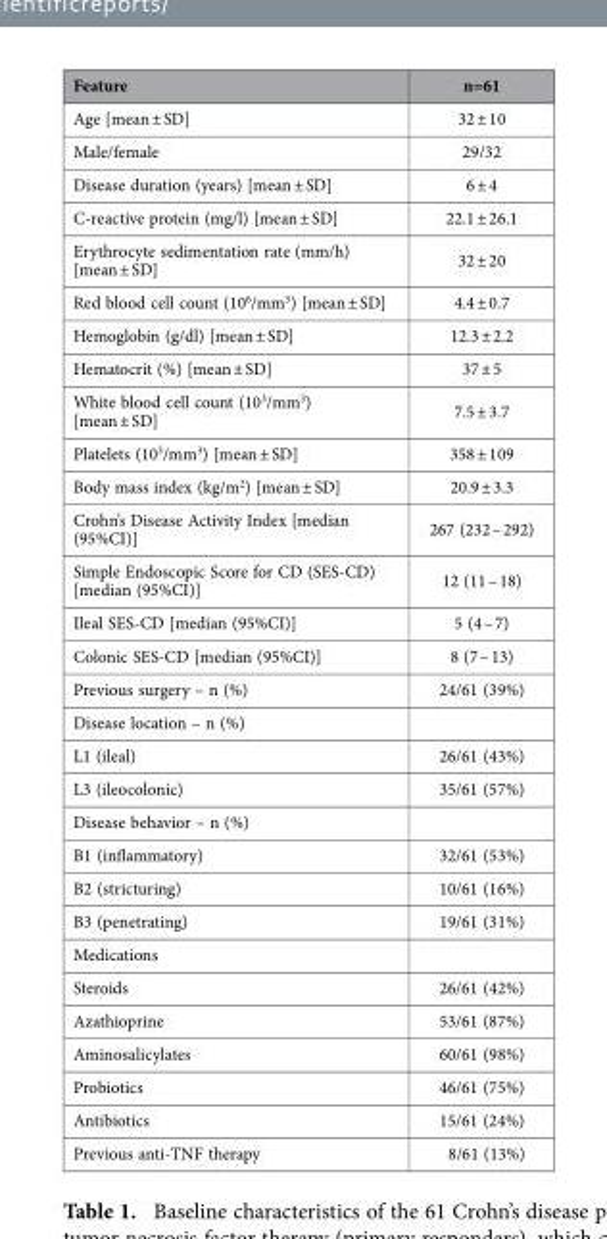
<table><thead><tr><td>Feature</td><td>n=61</td></tr></thead><tbody><tr><td>Age [mean ± SD]</td><td>32 ± 10</td></tr><tr><td>Male/female</td><td>29/32</td></tr><tr><td>Disease duration (years) [mean ± SD]</td><td>6 ± 4</td></tr><tr><td>C-reactive protein (mg/l) [mean ± SD]</td><td>22.1 ± 26.1</td></tr><tr><td>Erythrocyte sedimentation rate (mm/h) [mean ± SD]</td><td>32 ± 20</td></tr><tr><td>Red blood cell count (10<sup>6</sup>/mm<sup>3</sup>) [mean ± SD]</td><td>4.4 ± 0.7</td></tr><tr><td>Hemoglobin (g/dl) [mean ± SD]</td><td>12.3 ± 2.2</td></tr><tr><td>Hematocrit (%) [mean ± SD]</td><td>37 ± 5</td></tr><tr><td>White blood cell count (10<sup>3</sup>/mm<sup>3</sup>) [mean ± SD]</td><td>7.5 ± 3.7</td></tr><tr><td>Platelets (10<sup>3</sup>/mm<sup>3</sup>) [mean ± SD]</td><td>358 ± 109</td></tr><tr><td>Body mass index (kg/m<sup>2</sup>) [mean ± SD]</td><td>20.9 ± 3.3</td></tr><tr><td>Crohn’s Disease Activity Index [median (95%CI)]</td><td>267 (232 – 292)</td></tr><tr><td>Simple Endoscopic Score for CD (SES-CD) [median (95%CI)]</td><td>12 (11 – 18)</td></tr><tr><td>Ileal SES-CD [median (95%CI)]</td><td>5 (4 – 7)</td></tr><tr><td>Colonic SES-CD [median (95%CI)]</td><td>8 (7 – 13)</td></tr><tr><td>Previous surgery – n (%)</td><td>24/61 (39%)</td></tr><tr><td colspan="2">Disease location – n (%)</td></tr><tr><td>L1 (ileal)</td><td>26/61 (43%)</td></tr><tr><td>L3 (ileocolonic)</td><td>35/61 (57%)</td></tr><tr><td colspan="2">Disease behavior – n (%)</td></tr><tr><td>B1 (inflammatory)</td><td>32/61 (53%)</td></tr><tr><td>B2 (stricturing)</td><td>10/61 (16%)</td></tr><tr><td>B3 (penetrating)</td><td>19/61 (31%)</td></tr><tr><td colspan="2">Medications</td></tr><tr><td>Steroids</td><td>26/61 (42%)</td></tr><tr><td>Azathioprine</td><td>53/61 (87%)</td></tr><tr><td>Aminosalicylates</td><td>60/61 (98%)</td></tr><tr><td>Probiotics</td><td>46/61 (75%)</td></tr><tr><td>Antibiotics</td><td>15/61 (24%)</td></tr><tr><td>Previous anti-TNF therapy</td><td>8/61 (13%)</td></tr></tbody></table>